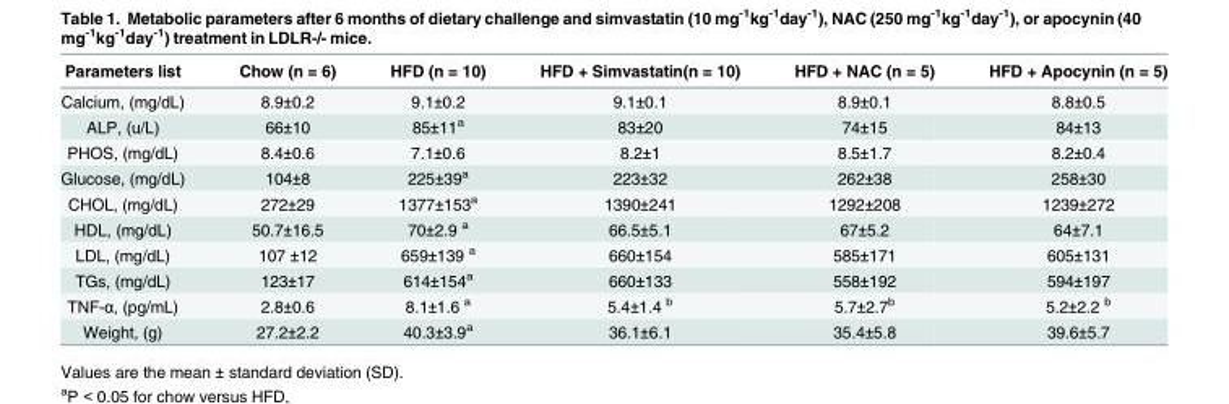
<table><thead><tr><td>Parameters list</td><td>Chow (n = 6)</td><td>HFD (n = 10)</td><td>HFD + Simvastatin(n = 10)</td><td>HFD + NAC (n = 5)</td><td>HFD + Apocynin (n = 5)</td></tr></thead><tbody><tr><td>Calcium, (mg/dL)</td><td>8.9±0.2</td><td>9.1±0.2</td><td>9.1±0.1</td><td>8.9±0.1</td><td>8.8±0.5</td></tr><tr><td>ALP, (u/L)</td><td>66±10</td><td>85±11<sup>a</sup></td><td>83±20</td><td>74±15</td><td>84±13</td></tr><tr><td>PHOS, (mg/dL)</td><td>8.4±0.6</td><td>7.1±0.6</td><td>8.2±1</td><td>8.5±1.7</td><td>8.2±0.4</td></tr><tr><td>Glucose, (mg/dL)</td><td>104±8</td><td>225±39<sup>a</sup></td><td>223±32</td><td>262±38</td><td>258±30</td></tr><tr><td>CHOL, (mg/dL)</td><td>272±29</td><td>1377±153<sup>a</sup></td><td>1390±241</td><td>1292±208</td><td>1239±272</td></tr><tr><td>HDL, (mg/dL)</td><td>50.7±16.5</td><td>70±2.9 <sup>a</sup></td><td>66.5±5.1</td><td>67±5.2</td><td>64±7.1</td></tr><tr><td>LDL, (mg/dL)</td><td>107 ±12</td><td>659±139 <sup>a</sup></td><td>660±154</td><td>585±171</td><td>605±131</td></tr><tr><td>TGs, (mg/dL)</td><td>123±17</td><td>614±154<sup>a</sup></td><td>660±133</td><td>558±192</td><td>594±197</td></tr><tr><td>TNF-α, (pg/mL)</td><td>2.8±0.6</td><td>8.1±1.6 <sup>a</sup></td><td>5.4±1.4 <sup>b</sup></td><td>5.7±2.7<sup>b</sup></td><td>5.2±2.2 <sup>b</sup></td></tr><tr><td>Weight, (g)</td><td>27.2±2.2</td><td>40.3±3.9<sup>a</sup></td><td>36.1±6.1</td><td>35.4±5.8</td><td>39.6±5.7</td></tr></tbody></table>